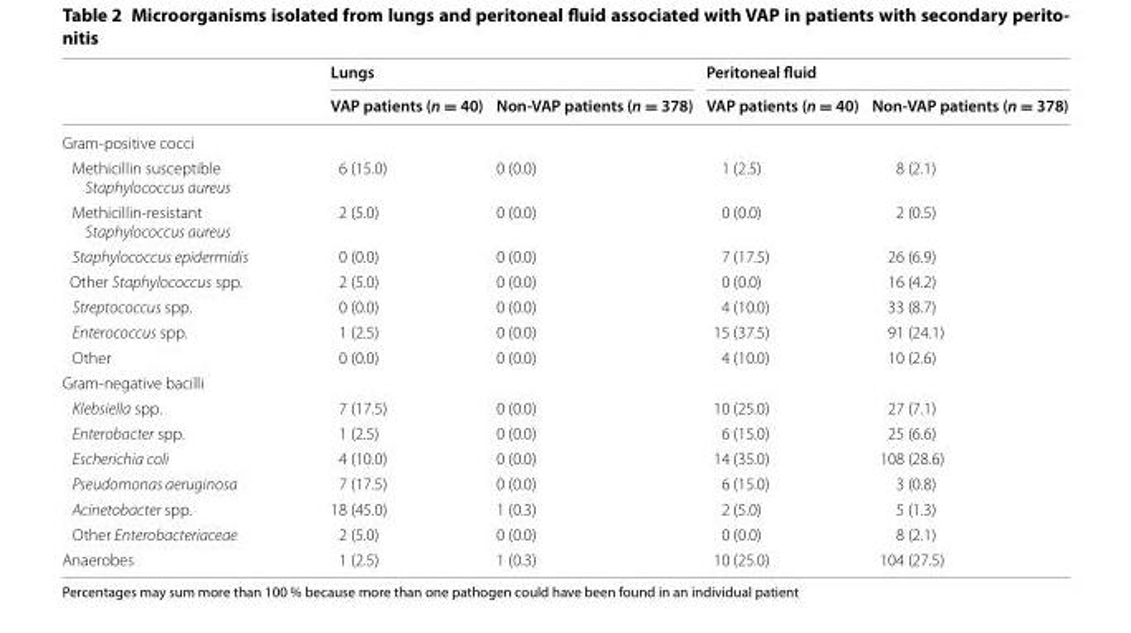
<table><thead><tr><td rowspan="2"></td><td colspan="2">Lungs</td><td colspan="2">Peritoneal fluid</td></tr><tr><td>VAP patients (n = 40)</td><td>Non-VAP patients (n = 378)</td><td>VAP patients (n = 40)</td><td>Non-VAP patients (n = 378)</td></tr></thead><tbody><tr><td colspan="5">Gram‑positive cocci</td></tr><tr><td>Methicillin susceptible Staphylococcus aureus</td><td>6 (15.0)</td><td>0 (0.0)</td><td>1 (2.5)</td><td>8 (2.1)</td></tr><tr><td>Methicillin‑resistant Staphylococcus aureus</td><td>2 (5.0)</td><td>0 (0.0)</td><td>0 (0.0)</td><td>2 (0.5)</td></tr><tr><td>Staphylococcus epidermidis</td><td>0 (0.0)</td><td>0 (0.0)</td><td>7 (17.5)</td><td>26 (6.9)</td></tr><tr><td>Other Staphylococcus spp.</td><td>2 (5.0)</td><td>0 (0.0)</td><td>0 (0.0)</td><td>16 (4.2)</td></tr><tr><td>Streptococcus spp.</td><td>0 (0.0)</td><td>0 (0.0)</td><td>4 (10.0)</td><td>33 (8.7)</td></tr><tr><td>Enterococcus spp.</td><td>1 (2.5)</td><td>0 (0.0)</td><td>15 (37.5)</td><td>91 (24.1)</td></tr><tr><td>Other</td><td>0 (0.0)</td><td>0 (0.0)</td><td>4 (10.0)</td><td>10 (2.6)</td></tr><tr><td colspan="5">Gram‑negative bacilli</td></tr><tr><td>Klebsiella spp.</td><td>7 (17.5)</td><td>0 (0.0)</td><td>10 (25.0)</td><td>27 (7.1)</td></tr><tr><td>Enterobacter spp.</td><td>1 (2.5)</td><td>0 (0.0)</td><td>6 (15.0)</td><td>25 (6.6)</td></tr><tr><td>Escherichia coli</td><td>4 (10.0)</td><td>0 (0.0)</td><td>14 (35.0)</td><td>108 (28.6)</td></tr><tr><td>Pseudomonas aeruginosa</td><td>7 (17.5)</td><td>0 (0.0)</td><td>6 (15.0)</td><td>3 (0.8)</td></tr><tr><td>Acinetobacter spp.</td><td>18 (45.0)</td><td>1 (0.3)</td><td>2 (5.0)</td><td>5 (1.3)</td></tr><tr><td>Other Enterobacteriaceae</td><td>2 (5.0)</td><td>0 (0.0)</td><td>0 (0.0)</td><td>8 (2.1)</td></tr><tr><td>Anaerobes</td><td>1 (2.5)</td><td>1 (0.3)</td><td>10 (25.0)</td><td>104 (27.5)</td></tr></tbody></table>